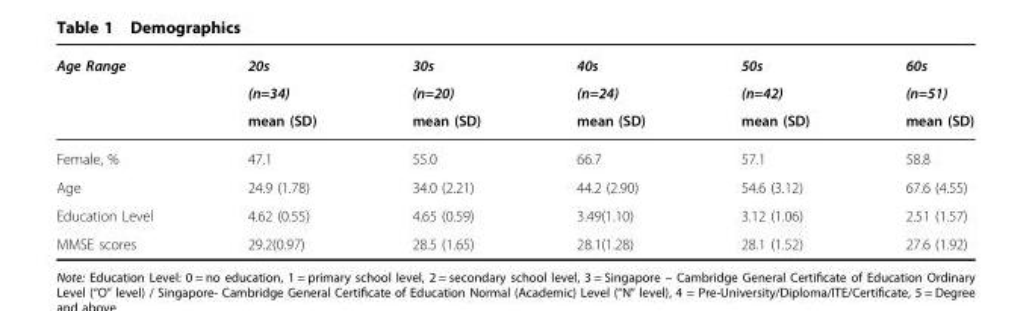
<table><thead><tr><td rowspan="3">Age Range</td><td rowspan="3">20s (n=34) mean (SD)</td><td rowspan="3">30s (n=20) mean (SD)</td><td rowspan="3">40s (n=24) mean (SD)</td><td rowspan="3">50s (n=42) mean (SD)</td><td rowspan="3">60s (n=51) mean (SD)</td></tr><tr></tr><tr></tr></thead><tbody><tr><td>Female, %</td><td>47.1</td><td>55.0</td><td>66.7</td><td>57.1</td><td>58.8</td></tr><tr><td>Age</td><td>24.9 (1.78)</td><td>34.0 (2.21)</td><td>44.2 (2.90)</td><td>54.6 (3.12)</td><td>67.6 (4.55)</td></tr><tr><td>Education Level</td><td>4.62 (0.55)</td><td>4.65 (0.59)</td><td>3.49(1.10)</td><td>3.12 (1.06)</td><td>2.51 (1.57)</td></tr><tr><td>MMSE scores</td><td>29.2(0.97)</td><td>28.5 (1.65)</td><td>28.1(1.28)</td><td>28.1 (1.52)</td><td>27.6 (1.92)</td></tr></tbody></table>